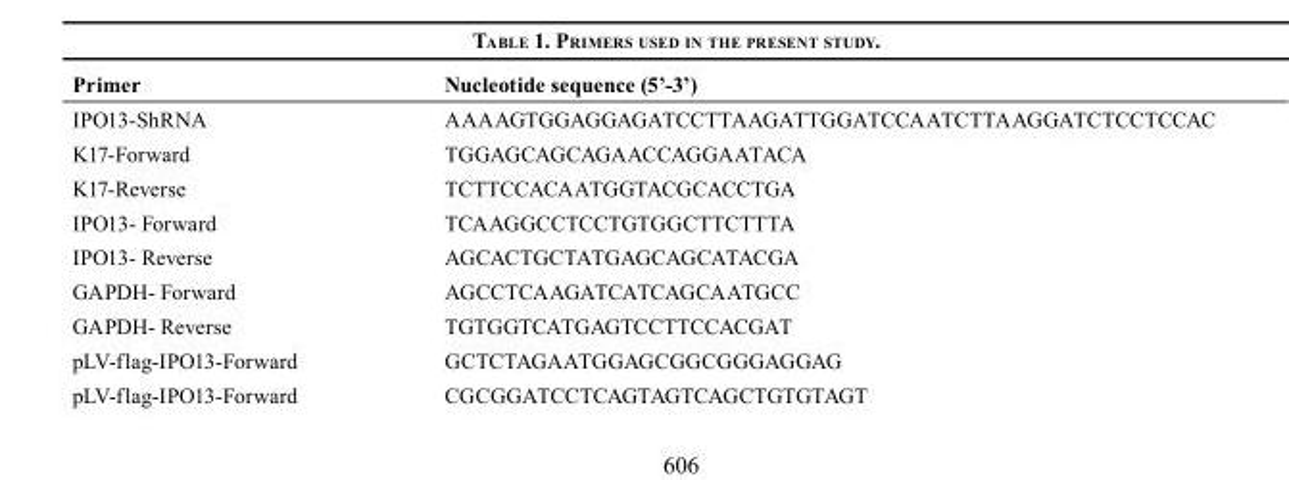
<table><thead><tr><td>Primer</td><td>Nucleotide sequence (5’-3’)</td></tr></thead><tbody><tr><td>IPO13-ShRNA</td><td>AAAAGTGGAGGAGATCCTTAAGATTGGATCCAATCTTAAGGATCTCCTCCAC</td></tr><tr><td>K17-Forward</td><td>TGGAGCAGCAGAACCAGGAATACA</td></tr><tr><td>K17-Reverse</td><td>TCTTCCACAATGGTACGCACCTGA</td></tr><tr><td>IPO13- Forward</td><td>TCAAGGCCTCCTGTGGCTTCTTTA</td></tr><tr><td>IPO13- Reverse</td><td>AGCACTGCTATGAGCAGCATACGA</td></tr><tr><td>GAPDH- Forward</td><td>AGCCTCAAGATCATCAGCAATGCC</td></tr><tr><td>GAPDH- Reverse</td><td>TGTGGTCATGAGTCCTTCCACGAT</td></tr><tr><td>pLV-flag-IPO13-Forward</td><td>GCTCTAGAATGGAGCGGCGGGAGGAG</td></tr><tr><td>pLV-flag-IPO13-Forward</td><td>CGCGGATCCTCAGTAGTCAGCTGTGTAGT</td></tr></tbody></table>